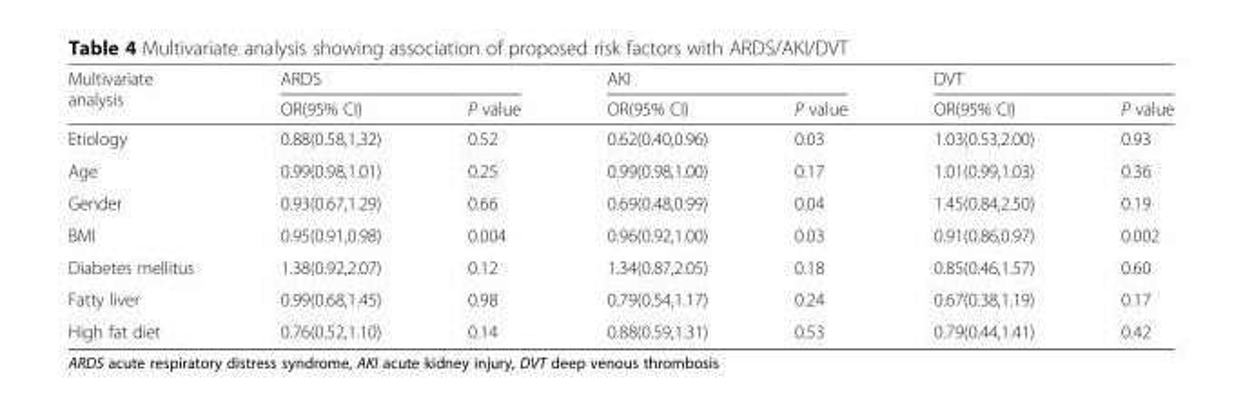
<table><thead><tr><td rowspan="2">Multivariate analysis</td><td colspan="2">ARDS</td><td colspan="2">AKI</td><td colspan="2">DVT</td></tr><tr><td>OR(95% CI)</td><td>P value</td><td>OR(95% CI)</td><td>P value</td><td>OR(95% CI)</td><td>P value</td></tr></thead><tbody><tr><td>Etiology</td><td>0.88(0.58,1,32)</td><td>0.52</td><td>0.62(0.40,0.96)</td><td>0.03</td><td>1.03(0.53,2.00)</td><td>0.93</td></tr><tr><td>Age</td><td>0.99(0.98,1.01)</td><td>0.25</td><td>0.99(0.98,1.00)</td><td>0.17</td><td>1.01(0.99,1.03)</td><td>0.36</td></tr><tr><td>Gender</td><td>0.93(0.67,1.29)</td><td>0.66</td><td>0.69(0.48,0.99)</td><td>0.04</td><td>1.45(0.84,2.50)</td><td>0.19</td></tr><tr><td>BMI</td><td>0.95(0.91,0.98)</td><td>0.004</td><td>0.96(0.92,1.00)</td><td>0.03</td><td>0.91(0.86,0.97)</td><td>0.002</td></tr><tr><td>Diabetes mellitus</td><td>1.38(0.92,2.07)</td><td>0.12</td><td>1.34(0.87,2.05)</td><td>0.18</td><td>0.85(0.46,1.57)</td><td>0.60</td></tr><tr><td>Fatty liver</td><td>0.99(0.68,1.45)</td><td>0.98</td><td>0.79(0.54,1.17)</td><td>0.24</td><td>0.67(0.38,1.19)</td><td>0.17</td></tr><tr><td>High fat diet</td><td>0.76(0.52,1.10)</td><td>0.14</td><td>0.88(0.59,1.31)</td><td>0.53</td><td>0.79(0.44,1.41)</td><td>0.42</td></tr></tbody></table>